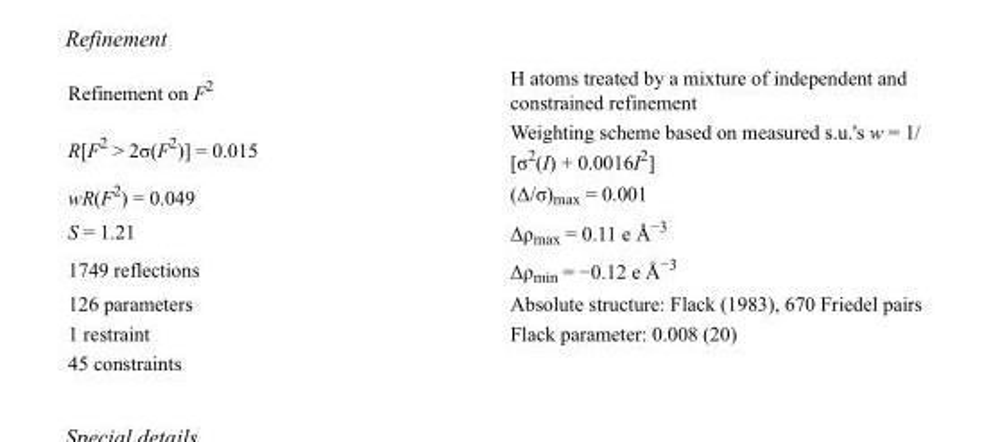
<table><tbody><tr><td>Refinement on F<sup>2</sup></td><td>H atoms treated by a mixture of independent and constrained refinement</td></tr><tr><td>R[F<sup>2</sup> &gt; 2σ(F<sup>2</sup>)] = 0.015</td><td>Weighting scheme based on measured s.u.&#x27;s w = 1/ [σ<sup>2</sup>(I) + 0.0016I<sup>2</sup>]</td></tr><tr><td>wR(F<sup>2</sup>) = 0.049</td><td>(Δ/σ)<sub>max</sub> = 0.001</td></tr><tr><td>S = 1.21</td><td>Δρ<sub>max</sub> = 0.11 e Å<sup>−3</sup></td></tr><tr><td>1749 reflections</td><td>Δρ<sub>min</sub> = −0.12 e Å<sup>−3</sup></td></tr><tr><td>126 parameters</td><td>Absolute structure: Flack (1983), 670 Friedel pairs</td></tr><tr><td>1 restraint</td><td>Flack parameter: 0.008 (20)</td></tr><tr><td>45 constraints</td><td></td></tr></tbody></table>